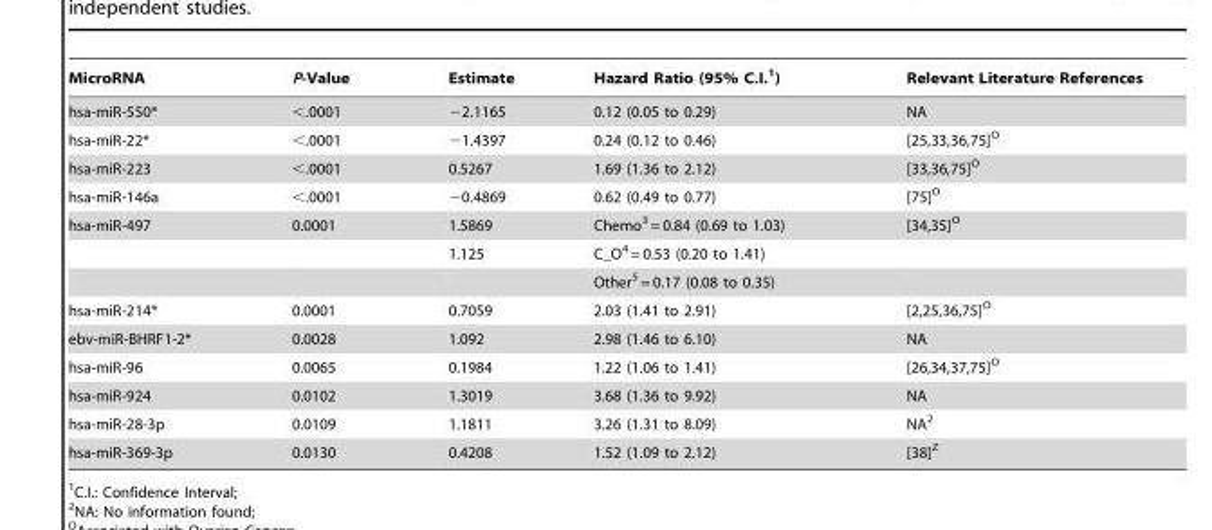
<table><thead><tr><td>MicroRNA</td><td>P-Value</td><td>Estimate</td><td>Hazard Ratio (95% C.I.<sup>1</sup>)</td><td>Relevant Literature References</td></tr></thead><tbody><tr><td>hsa-miR-550*</td><td>&lt;.0001</td><td>−2.1165</td><td>0.12 (0.05 to 0.29)</td><td>NA</td></tr><tr><td>hsa-miR-22*</td><td>&lt;.0001</td><td>−1.4397</td><td>0.24 (0.12 to 0.46)</td><td>[25,33,36,75]O</td></tr><tr><td>hsa-miR-223</td><td>&lt;.0001</td><td>0.5267</td><td>1.69 (1.36 to 2.12)</td><td>[33,36,75]O</td></tr><tr><td>hsa-miR-146a</td><td>&lt;.0001</td><td>−0.4869</td><td>0.62 (0.49 to 0.77)</td><td>[75]O</td></tr><tr><td rowspan="3">hsa-miR-497</td><td>0.0001</td><td>1.5869</td><td>Chemo<sup>3</sup> = 0.84 (0.69 to 1.03)</td><td>[34,35]O</td></tr><tr><td></td><td>1.125</td><td>C_O<sup>4</sup> = 0.53 (0.20 to 1.41)</td><td></td></tr><tr><td></td><td></td><td>Other<sup>5</sup> = 0.17 (0.08 to 0.35)</td><td></td></tr><tr><td>hsa-miR-214*</td><td>0.0001</td><td>0.7059</td><td>2.03 (1.41 to 2.91)</td><td>[2,25,36,75]O</td></tr><tr><td>ebv-miR-BHRF1-2*</td><td>0.0028</td><td>1.092</td><td>2.98 (1.46 to 6.10)</td><td>NA</td></tr><tr><td>hsa-miR-96</td><td>0.0065</td><td>0.1984</td><td>1.22 (1.06 to 1.41)</td><td>[26,34,37,75]O</td></tr><tr><td>hsa-miR-924</td><td>0.0102</td><td>1.3019</td><td>3.68 (1.36 to 9.92)</td><td>NA</td></tr><tr><td>hsa-miR-28-3p</td><td>0.0109</td><td>1.1811</td><td>3.26 (1.31 to 8.09)</td><td>NA<sup>2</sup></td></tr><tr><td>hsa-miR-369-3p</td><td>0.0130</td><td>0.4208</td><td>1.52 (1.09 to 2.12)</td><td>[38]Z</td></tr></tbody></table>